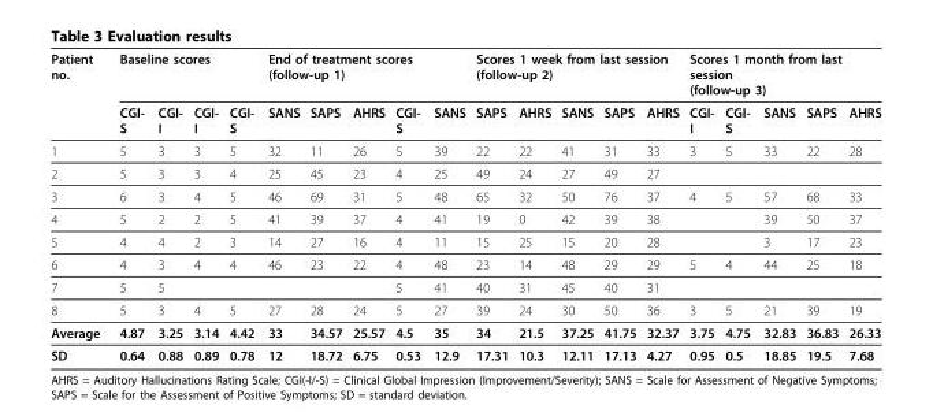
<table><thead><tr><td rowspan="2">Patient no.</td><td colspan="4">Baseline scores</td><td colspan="5">End of treatment scores (follow-up 1)</td><td colspan="5">Scores 1 week from last session (follow-up 2)</td><td colspan="5">Scores 1 month from last session (follow-up 3)</td></tr><tr><td>CGI- S</td><td>CGI- I</td><td>CGI- I</td><td>CGI- S</td><td>SANS</td><td>SAPS</td><td>AHRS</td><td>CGI- S</td><td>SANS</td><td>SAPS</td><td>AHRS</td><td>SANS</td><td>SAPS</td><td>AHRS</td><td>CGI- I</td><td>CGI- S</td><td>SANS</td><td>SAPS</td><td>AHRS</td></tr></thead><tbody><tr><td>1</td><td>5</td><td>3</td><td>3</td><td>5</td><td>32</td><td>11</td><td>26</td><td>5</td><td>39</td><td>22</td><td>22</td><td>41</td><td>31</td><td>33</td><td>3</td><td>5</td><td>33</td><td>22</td><td>28</td></tr><tr><td>2</td><td>5</td><td>3</td><td>3</td><td>4</td><td>25</td><td>45</td><td>23</td><td>4</td><td>25</td><td>49</td><td>24</td><td>27</td><td>49</td><td>27</td><td></td><td></td><td></td><td></td><td></td></tr><tr><td>3</td><td>6</td><td>3</td><td>4</td><td>5</td><td>46</td><td>69</td><td>31</td><td>5</td><td>48</td><td>65</td><td>32</td><td>50</td><td>76</td><td>37</td><td>4</td><td>5</td><td>57</td><td>68</td><td>33</td></tr><tr><td>4</td><td>5</td><td>2</td><td>2</td><td>5</td><td>41</td><td>39</td><td>37</td><td>4</td><td>41</td><td>19</td><td>0</td><td>42</td><td>39</td><td>38</td><td></td><td></td><td>39</td><td>50</td><td>37</td></tr><tr><td>5</td><td>4</td><td>4</td><td>2</td><td>3</td><td>14</td><td>27</td><td>16</td><td>4</td><td>11</td><td>15</td><td>25</td><td>15</td><td>20</td><td>28</td><td></td><td></td><td>3</td><td>17</td><td>23</td></tr><tr><td>6</td><td>4</td><td>3</td><td>4</td><td>4</td><td>46</td><td>23</td><td>22</td><td>4</td><td>48</td><td>23</td><td>14</td><td>48</td><td>29</td><td>29</td><td>5</td><td>4</td><td>44</td><td>25</td><td>18</td></tr><tr><td>7</td><td>5</td><td>5</td><td></td><td></td><td></td><td></td><td></td><td>5</td><td>41</td><td>40</td><td>31</td><td>45</td><td>40</td><td>31</td><td></td><td></td><td></td><td></td><td></td></tr><tr><td>8</td><td>5</td><td>3</td><td>4</td><td>5</td><td>27</td><td>28</td><td>24</td><td>5</td><td>27</td><td>39</td><td>24</td><td>30</td><td>50</td><td>36</td><td>3</td><td>5</td><td>21</td><td>39</td><td>19</td></tr><tr><td>Average</td><td>4.87</td><td>3.25</td><td>3.14</td><td>4.42</td><td>33</td><td>34.57</td><td>25.57</td><td>4.5</td><td>35</td><td>34</td><td>21.5</td><td>37.25</td><td>41.75</td><td>32.37</td><td>3.75</td><td>4.75</td><td>32.83</td><td>36.83</td><td>26.33</td></tr><tr><td>SD</td><td>0.64</td><td>0.88</td><td>0.89</td><td>0.78</td><td>12</td><td>18.72</td><td>6.75</td><td>0.53</td><td>12.9</td><td>17.31</td><td>10.3</td><td>12.11</td><td>17.13</td><td>4.27</td><td>0.95</td><td>0.5</td><td>18.85</td><td>19.5</td><td>7.68</td></tr></tbody></table>